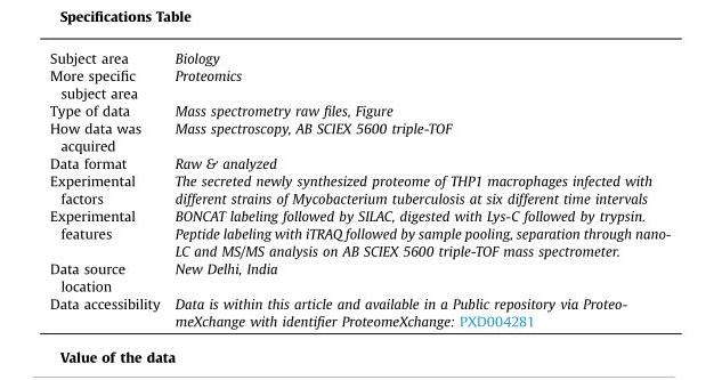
<table><tbody><tr><td>Subject area</td><td>Biology</td></tr><tr><td>More specific subject area</td><td>Proteomics</td></tr><tr><td>Type of data</td><td>Mass spectrometry raw files, Figure</td></tr><tr><td>How data was acquired</td><td>Mass spectroscopy, AB SCIEX 5600 triple-TOF</td></tr><tr><td>Data format</td><td>Raw &amp; analyzed</td></tr><tr><td>Experimental factors</td><td>The secreted newly synthesized proteome of THP1 macrophages infected with different strains of Mycobacterium tuberculosis at six different time intervals</td></tr><tr><td>Experimental features</td><td>BONCAT labeling followed by SILAC, digested with Lys-C followed by trypsin. Peptide labeling with iTRAQ followed by sample pooling, separation through nano- LC and MS/MS analysis on AB SCIEX 5600 triple-TOF mass spectrometer.</td></tr><tr><td>Data source location</td><td>New Delhi, India</td></tr><tr><td>Data accessibility</td><td>Data is within this article and available in a Public repository via Proteo- meXchange with identifier ProteomeXchange: PXD004281</td></tr></tbody></table>